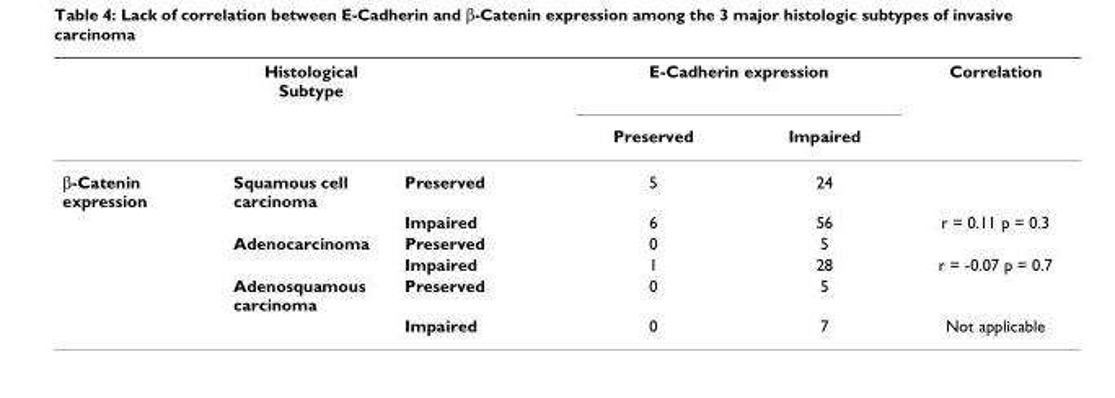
<table><thead><tr><td rowspan="2"></td><td rowspan="2">Histological Subtype</td><td rowspan="2"></td><td colspan="2">E-Cadherin expression</td><td rowspan="2">Correlation</td></tr><tr><td>Preserved</td><td>Impaired</td></tr></thead><tbody><tr><td rowspan="6">β-Catenin expression</td><td>Squamous cell carcinoma</td><td>Preserved</td><td>5</td><td>24</td><td></td></tr><tr><td></td><td>Impaired</td><td>6</td><td>56</td><td>r = 0.11 p = 0.3</td></tr><tr><td>Adenocarcinoma</td><td>Preserved</td><td>0</td><td>5</td><td></td></tr><tr><td></td><td>Impaired</td><td>1</td><td>28</td><td>r = -0.07 p = 0.7</td></tr><tr><td>Adenosquamous carcinoma</td><td>Preserved</td><td>0</td><td>5</td><td></td></tr><tr><td></td><td>Impaired</td><td>0</td><td>7</td><td>Not applicable</td></tr></tbody></table>